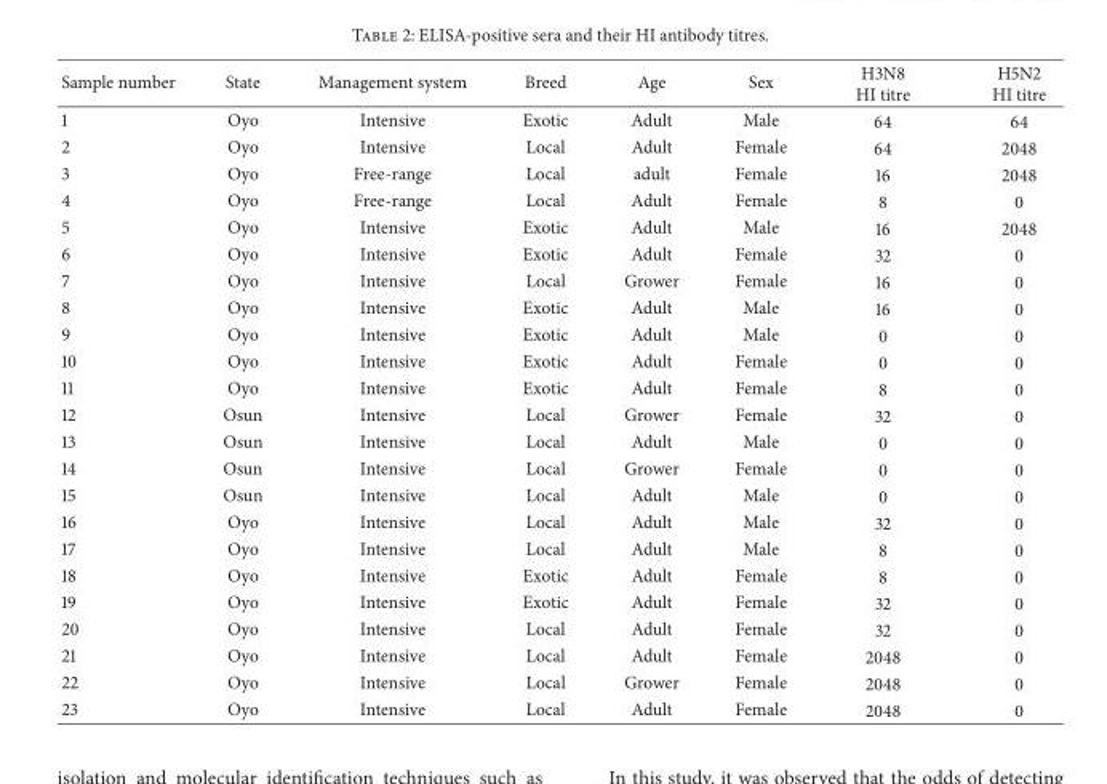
<table><thead><tr><td>Sample number</td><td>State</td><td>Management system</td><td>Breed</td><td>Age</td><td>Sex</td><td>H3N8 HI titre</td><td>H5N2 HI titre</td></tr></thead><tbody><tr><td>1</td><td>Oyo</td><td>Intensive</td><td>Exotic</td><td>Adult</td><td>Male</td><td>64</td><td>64</td></tr><tr><td>2</td><td>Oyo</td><td>Intensive</td><td>Local</td><td>Adult</td><td>Female</td><td>64</td><td>2048</td></tr><tr><td>3</td><td>Oyo</td><td>Free-range</td><td>Local</td><td>adult</td><td>Female</td><td>16</td><td>2048</td></tr><tr><td>4</td><td>Oyo</td><td>Free-range</td><td>Local</td><td>Adult</td><td>Female</td><td>8</td><td>0</td></tr><tr><td>5</td><td>Oyo</td><td>Intensive</td><td>Exotic</td><td>Adult</td><td>Male</td><td>16</td><td>2048</td></tr><tr><td>6</td><td>Oyo</td><td>Intensive</td><td>Exotic</td><td>Adult</td><td>Female</td><td>32</td><td>0</td></tr><tr><td>7</td><td>Oyo</td><td>Intensive</td><td>Local</td><td>Grower</td><td>Female</td><td>16</td><td>0</td></tr><tr><td>8</td><td>Oyo</td><td>Intensive</td><td>Exotic</td><td>Adult</td><td>Male</td><td>16</td><td>0</td></tr><tr><td>9</td><td>Oyo</td><td>Intensive</td><td>Exotic</td><td>Adult</td><td>Male</td><td>0</td><td>0</td></tr><tr><td>10</td><td>Oyo</td><td>Intensive</td><td>Exotic</td><td>Adult</td><td>Female</td><td>0</td><td>0</td></tr><tr><td>11</td><td>Oyo</td><td>Intensive</td><td>Exotic</td><td>Adult</td><td>Female</td><td>8</td><td>0</td></tr><tr><td>12</td><td>Osun</td><td>Intensive</td><td>Local</td><td>Grower</td><td>Female</td><td>32</td><td>0</td></tr><tr><td>13</td><td>Osun</td><td>Intensive</td><td>Local</td><td>Adult</td><td>Male</td><td>0</td><td>0</td></tr><tr><td>14</td><td>Osun</td><td>Intensive</td><td>Local</td><td>Grower</td><td>Female</td><td>0</td><td>0</td></tr><tr><td>15</td><td>Osun</td><td>Intensive</td><td>Local</td><td>Adult</td><td>Male</td><td>0</td><td>0</td></tr><tr><td>16</td><td>Oyo</td><td>Intensive</td><td>Local</td><td>Adult</td><td>Male</td><td>32</td><td>0</td></tr><tr><td>17</td><td>Oyo</td><td>Intensive</td><td>Local</td><td>Adult</td><td>Male</td><td>8</td><td>0</td></tr><tr><td>18</td><td>Oyo</td><td>Intensive</td><td>Exotic</td><td>Adult</td><td>Female</td><td>8</td><td>0</td></tr><tr><td>19</td><td>Oyo</td><td>Intensive</td><td>Exotic</td><td>Adult</td><td>Female</td><td>32</td><td>0</td></tr><tr><td>20</td><td>Oyo</td><td>Intensive</td><td>Local</td><td>Adult</td><td>Female</td><td>32</td><td>0</td></tr><tr><td>21</td><td>Oyo</td><td>Intensive</td><td>Local</td><td>Adult</td><td>Female</td><td>2048</td><td>0</td></tr><tr><td>22</td><td>Oyo</td><td>Intensive</td><td>Local</td><td>Grower</td><td>Female</td><td>2048</td><td>0</td></tr><tr><td>23</td><td>Oyo</td><td>Intensive</td><td>Local</td><td>Adult</td><td>Female</td><td>2048</td><td>0</td></tr></tbody></table>